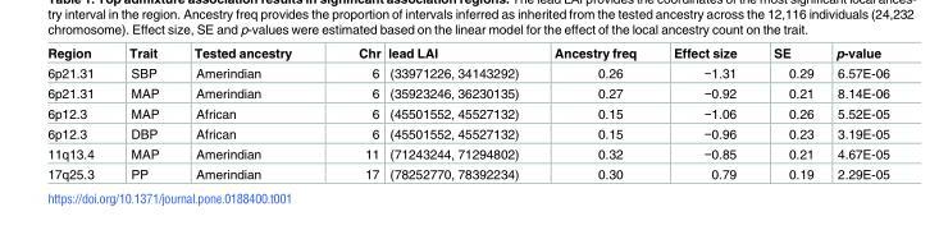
<table><thead><tr><td>Region</td><td>Trait</td><td>Tested ancestry</td><td>Chr</td><td>lead LAI</td><td>Ancestry freq</td><td>Effect size</td><td>SE</td><td>p-value</td></tr></thead><tbody><tr><td>6p21.31</td><td>SBP</td><td>Amerindian</td><td>6</td><td>(33971226, 34143292)</td><td>0.26</td><td>−1.31</td><td>0.29</td><td>6.57E-06</td></tr><tr><td>6p21.31</td><td>MAP</td><td>Amerindian</td><td>6</td><td>(35923246, 36230135)</td><td>0.27</td><td>−0.92</td><td>0.21</td><td>8.14E-06</td></tr><tr><td>6p12.3</td><td>MAP</td><td>African</td><td>6</td><td>(45501552, 45527132)</td><td>0.15</td><td>−1.06</td><td>0.26</td><td>5.52E-05</td></tr><tr><td>6p12.3</td><td>DBP</td><td>African</td><td>6</td><td>(45501552, 45527132)</td><td>0.15</td><td>−0.96</td><td>0.23</td><td>3.19E-05</td></tr><tr><td>11q13.4</td><td>MAP</td><td>Amerindian</td><td>11</td><td>(71243244, 71294802)</td><td>0.32</td><td>−0.85</td><td>0.21</td><td>4.67E-05</td></tr><tr><td>17q25.3</td><td>PP</td><td>Amerindian</td><td>17</td><td>(78252770, 78392234)</td><td>0.30</td><td>0.79</td><td>0.19</td><td>2.29E-05</td></tr></tbody></table>